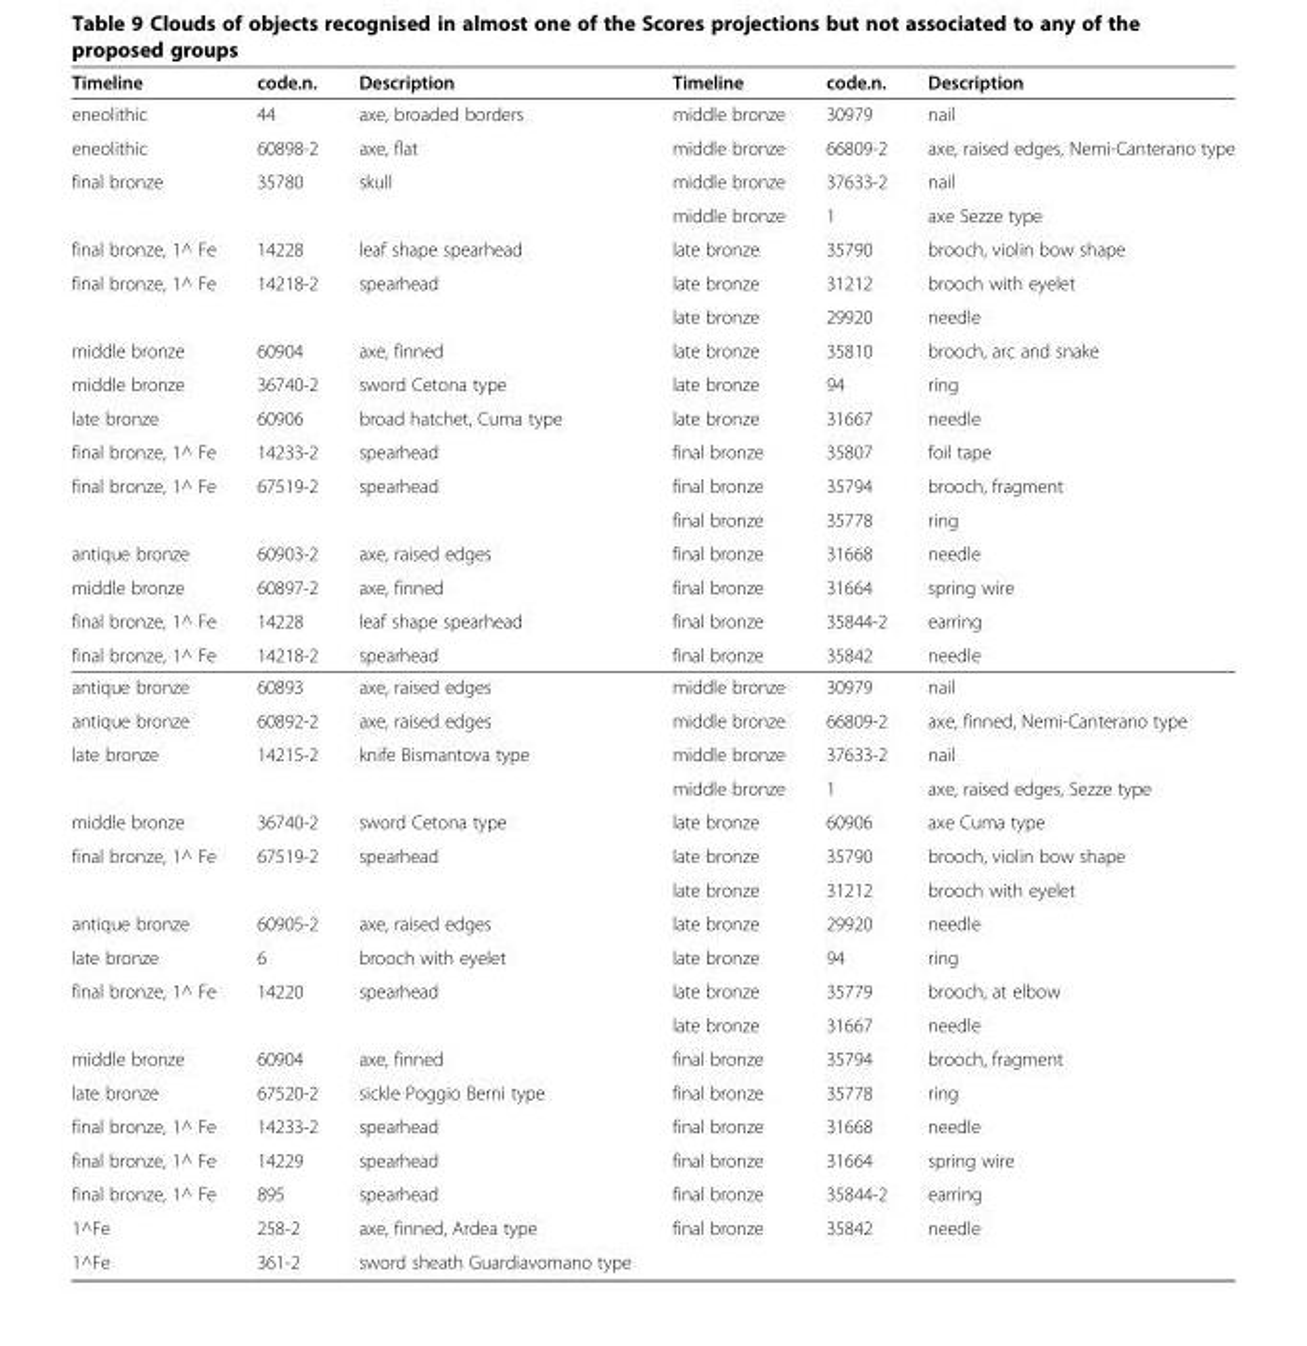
<table><thead><tr><td>Timeline</td><td>code.n.</td><td>Description</td><td>Timeline</td><td>code.n.</td><td>Description</td></tr></thead><tbody><tr><td>eneolithic</td><td>44</td><td>axe, broaded borders</td><td>middle bronze</td><td>30979</td><td>nail</td></tr><tr><td>eneolithic</td><td>60898-2</td><td>axe, flat</td><td>middle bronze</td><td>66809-2</td><td>axe, raised edges, Nemi-Canterano type</td></tr><tr><td rowspan="2">final bronze</td><td>35780</td><td>skull</td><td>middle bronze</td><td>37633-2</td><td>nail</td></tr><tr><td></td><td></td><td>middle bronze</td><td>1</td><td>axe Sezze type</td></tr><tr><td>final bronze, 1^ Fe</td><td>14228</td><td>leaf shape spearhead</td><td>late bronze</td><td>35790</td><td>brooch, violin bow shape</td></tr><tr><td rowspan="2">final bronze, 1^ Fe</td><td>14218-2</td><td>spearhead</td><td>late bronze</td><td>31212</td><td>brooch with eyelet</td></tr><tr><td></td><td></td><td>late bronze</td><td>29920</td><td>needle</td></tr><tr><td>middle bronze</td><td>60904</td><td>axe, finned</td><td>late bronze</td><td>35810</td><td>brooch, arc and snake</td></tr><tr><td>middle bronze</td><td>36740-2</td><td>sword Cetona type</td><td>late bronze</td><td>94</td><td>ring</td></tr><tr><td>late bronze</td><td>60906</td><td>broad hatchet, Cuma type</td><td>late bronze</td><td>31667</td><td>needle</td></tr><tr><td>final bronze, 1^ Fe</td><td>14233-2</td><td>spearhead</td><td>final bronze</td><td>35807</td><td>foil tape</td></tr><tr><td rowspan="2">final bronze, 1^ Fe</td><td>67519-2</td><td>spearhead</td><td>final bronze</td><td>35794</td><td>brooch, fragment</td></tr><tr><td></td><td></td><td>final bronze</td><td>35778</td><td>ring</td></tr><tr><td>antique bronze</td><td>60903-2</td><td>axe, raised edges</td><td>final bronze</td><td>31668</td><td>needle</td></tr><tr><td>middle bronze</td><td>60897-2</td><td>axe, finned</td><td>final bronze</td><td>31664</td><td>spring wire</td></tr><tr><td>final bronze, 1^ Fe</td><td>14228</td><td>leaf shape spearhead</td><td>final bronze</td><td>35844-2</td><td>earring</td></tr><tr><td>final bronze, 1^ Fe</td><td>14218-2</td><td>spearhead</td><td>final bronze</td><td>35842</td><td>needle</td></tr><tr><td>antique bronze</td><td>60893</td><td>axe, raised edges</td><td>middle bronze</td><td>30979</td><td>nail</td></tr><tr><td>antique bronze</td><td>60892-2</td><td>axe, raised edges</td><td>middle bronze</td><td>66809-2</td><td>axe, finned, Nemi-Canterano type</td></tr><tr><td rowspan="2">late bronze</td><td>14215-2</td><td>knife Bismantova type</td><td>middle bronze</td><td>37633-2</td><td>nail</td></tr><tr><td></td><td></td><td>middle bronze</td><td>1</td><td>axe, raised edges, Sezze type</td></tr><tr><td>middle bronze</td><td>36740-2</td><td>sword Cetona type</td><td>late bronze</td><td>60906</td><td>axe Cuma type</td></tr><tr><td rowspan="2">final bronze, 1^ Fe</td><td>67519-2</td><td>spearhead</td><td>late bronze</td><td>35790</td><td>brooch, violin bow shape</td></tr><tr><td></td><td></td><td>late bronze</td><td>31212</td><td>brooch with eyelet</td></tr><tr><td>antique bronze</td><td>60905-2</td><td>axe, raised edges</td><td>late bronze</td><td>29920</td><td>needle</td></tr><tr><td>late bronze</td><td>6</td><td>brooch with eyelet</td><td>late bronze</td><td>94</td><td>ring</td></tr><tr><td rowspan="2">final bronze, 1^ Fe</td><td>14220</td><td>spearhead</td><td>late bronze</td><td>35779</td><td>brooch, at elbow</td></tr><tr><td></td><td></td><td>late bronze</td><td>31667</td><td>needle</td></tr><tr><td>middle bronze</td><td>60904</td><td>axe, finned</td><td>final bronze</td><td>35794</td><td>brooch, fragment</td></tr><tr><td>late bronze</td><td>67520-2</td><td>sickle Poggio Berni type</td><td>final bronze</td><td>35778</td><td>ring</td></tr><tr><td>final bronze, 1^ Fe</td><td>14233-2</td><td>spearhead</td><td>final bronze</td><td>31668</td><td>needle</td></tr><tr><td>final bronze, 1^ Fe</td><td>14229</td><td>spearhead</td><td>final bronze</td><td>31664</td><td>spring wire</td></tr><tr><td>final bronze, 1^ Fe</td><td>895</td><td>spearhead</td><td>final bronze</td><td>35844-2</td><td>earring</td></tr><tr><td>1^Fe</td><td>258-2</td><td>axe, finned, Ardea type</td><td>final bronze</td><td>35842</td><td>needle</td></tr><tr><td>1^Fe</td><td>361-2</td><td>sword sheath Guardiavomano type</td><td></td><td></td><td></td></tr></tbody></table>